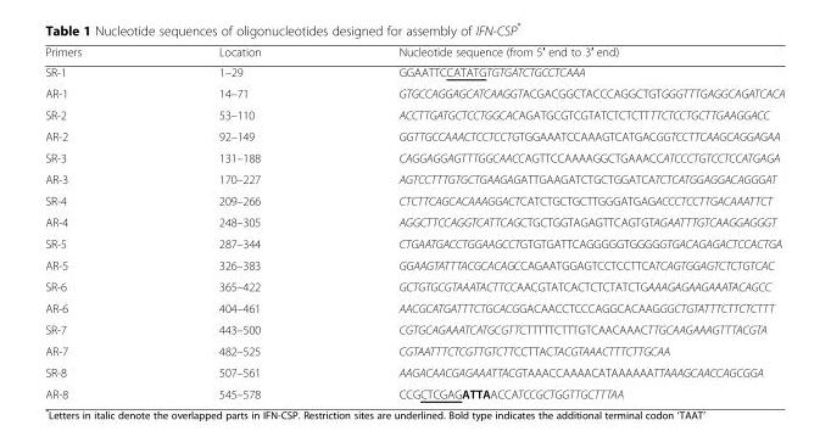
<table><thead><tr><td>Primers</td><td>Location</td><td>Nucleotide sequence (from 5′ end to 3′ end)</td></tr></thead><tbody><tr><td>SR-1</td><td>1–29</td><td>GGAATTCCATATGTGTGATCTGCCTCAAA</td></tr><tr><td>AR-1</td><td>14–71</td><td>GTGCCAGGAGCATCAAGGTACGACGGCTACCCAGGCTGTGGGTTTGAGGCAGATCACA</td></tr><tr><td>SR-2</td><td>53–110</td><td>ACCTTGATGCTCCTGGCACAGATGCGTCGTATCTCTCTTTTCTCCTGCTTGAAGGACC</td></tr><tr><td>AR-2</td><td>92–149</td><td>GGTTGCCAAACTCCTCCTGTGGAAATCCAAAGTCATGACGGTCCTTCAAGCAGGAGAA</td></tr><tr><td>SR-3</td><td>131–188</td><td>CAGGAGGAGTTTGGCAACCAGTTCCAAAAGGCTGAAACCATCCCTGTCCTCCATGAGA</td></tr><tr><td>AR-3</td><td>170–227</td><td>AGTCCTTTGTGCTGAAGAGATTGAAGATCTGCTGGATCATCTCATGGAGGACAGGGAT</td></tr><tr><td>SR-4</td><td>209–266</td><td>CTCTTCAGCACAAAGGACTCATCTGCTGCTTGGGATGAGACCCTCCTTGACAAATTCT</td></tr><tr><td>AR-4</td><td>248–305</td><td>AGGCTTCCAGGTCATTCAGCTGCTGGTAGAGTTCAGTGTAGAATTTGTCAAGGAGGGT</td></tr><tr><td>SR-5</td><td>287–344</td><td>CTGAATGACCTGGAAGCCTGTGTGATTCAGGGGGTGGGGGTGACAGAGACTCCACTGA</td></tr><tr><td>AR-5</td><td>326–383</td><td>GGAAGTATTTACGCACAGCCAGAATGGAGTCCTCCTTCATCAGTGGAGTCTCTGTCAC</td></tr><tr><td>SR-6</td><td>365–422</td><td>GCTGTGCGTAAATACTTCCAACGTATCACTCTCTATCTGAAAGAGAAGAAATACAGCC</td></tr><tr><td>AR-6</td><td>404–461</td><td>AACGCATGATTTCTGCACGGACAACCTCCCAGGCACAAGGGCTGTATTTCTTCTCTTT</td></tr><tr><td>SR-7</td><td>443–500</td><td>CGTGCAGAAATCATGCGTTCTTTTTCTTTGTCAACAAACTTGCAAGAAAGTTTACGTA</td></tr><tr><td>AR-7</td><td>482–525</td><td>CGTAATTTCTCGTTGTCTTCCTTACTACGTAAACTTTCTTGCAA</td></tr><tr><td>SR-8</td><td>507–561</td><td>AAGACAACGAGAAATTACGTAAACCAAAACATAAAAAATTAAAGCAACCAGCGGA</td></tr><tr><td>AR-8</td><td>545–578</td><td>CCGCTCGAGATTAACCATCCGCTGGTTGCTTTAA</td></tr></tbody></table>